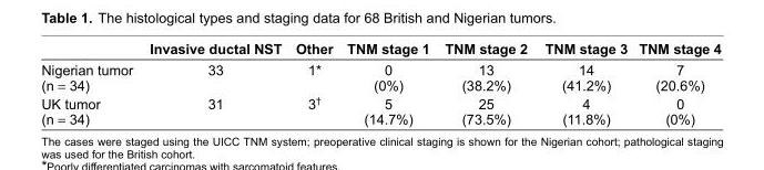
<table><thead><tr><td></td><td>Invasive ductal NST</td><td>Other</td><td>TNM stage 1</td><td>TNM stage 2</td><td>TNM stage 3</td><td>TNM stage 4</td></tr></thead><tbody><tr><td>Nigerian tumor (n = 34)</td><td>33</td><td>1*</td><td>0 (0%)</td><td>13 (38.2%)</td><td>14 (41.2%)</td><td>7 (20.6%)</td></tr><tr><td>UK tumor (n = 34)</td><td>31</td><td>3†</td><td>5 (14.7%)</td><td>25 (73.5%)</td><td>4 (11.8%)</td><td>0 (0%)</td></tr></tbody></table>